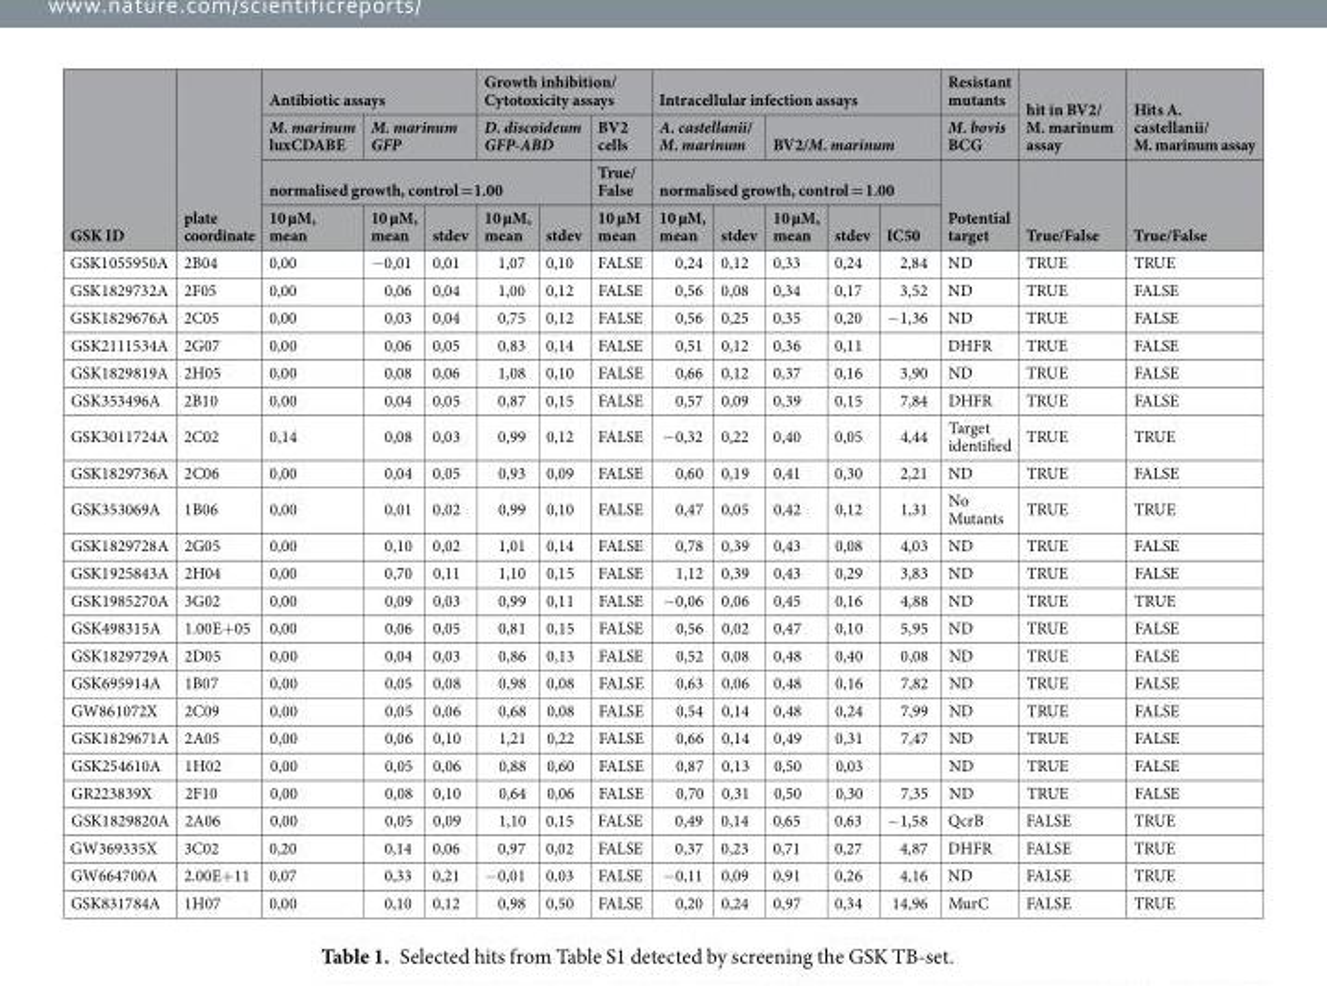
<table><thead><tr><td rowspan="4">GSK ID</td><td rowspan="4">plate coordinate</td><td colspan="3">Antibiotic assays</td><td colspan="3">Growth inhibition/ Cytotoxicity assays</td><td colspan="5">Intracellular infection assays</td><td rowspan="4">Resistant mutants M. bovis BCG Potential target</td><td rowspan="4">hit in BV2/ M. marinum assay True/False</td><td rowspan="4">Hits A. castellanii/ M. marinum assay True/False</td></tr><tr><td>M. marinum luxCDABE</td><td colspan="2">M. marinum GFP</td><td colspan="2">D. discoideum GFP-ABD</td><td rowspan="3">BV2 cells True/ False 10 µM mean</td><td colspan="2">A. castellanii/ M. marinum</td><td colspan="3">BV2/M. marinum</td></tr><tr><td colspan="5">normalised growth, control = 1.00</td><td colspan="5">normalised growth, control = 1.00</td></tr><tr><td>10 µM, mean</td><td>10 µM, mean</td><td>stdev</td><td>10 µM, mean</td><td>stdev</td><td>10 µM, mean</td><td>stdev</td><td>10 µM, mean</td><td>stdev</td><td>IC50</td></tr></thead><tbody><tr><td>GSK1055950A</td><td>2B04</td><td>0,00</td><td>−0,01</td><td>0,01</td><td>1,07</td><td>0,10</td><td>FALSE</td><td>0,24</td><td>0,12</td><td>0,33</td><td>0,24</td><td>2,84</td><td>ND</td><td>TRUE</td><td>TRUE</td></tr><tr><td>GSK1829732A</td><td>2F05</td><td>0,00</td><td>0,06</td><td>0,04</td><td>1,00</td><td>0,12</td><td>FALSE</td><td>0,56</td><td>0,08</td><td>0,34</td><td>0,17</td><td>3,52</td><td>ND</td><td>TRUE</td><td>FALSE</td></tr><tr><td>GSK1829676A</td><td>2C05</td><td>0,00</td><td>0,03</td><td>0,04</td><td>0,75</td><td>0,12</td><td>FALSE</td><td>0,56</td><td>0,25</td><td>0,35</td><td>0,20</td><td>−1,36</td><td>ND</td><td>TRUE</td><td>FALSE</td></tr><tr><td>GSK2111534A</td><td>2G07</td><td>0,00</td><td>0,06</td><td>0,05</td><td>0,83</td><td>0,14</td><td>FALSE</td><td>0,51</td><td>0,12</td><td>0,36</td><td>0,11</td><td></td><td>DHFR</td><td>TRUE</td><td>FALSE</td></tr><tr><td>GSK1829819A</td><td>2H05</td><td>0,00</td><td>0,08</td><td>0,06</td><td>1,08</td><td>0,10</td><td>FALSE</td><td>0,66</td><td>0,12</td><td>0,37</td><td>0,16</td><td>3,90</td><td>ND</td><td>TRUE</td><td>FALSE</td></tr><tr><td>GSK353496A</td><td>2B10</td><td>0,00</td><td>0,04</td><td>0,05</td><td>0,87</td><td>0,15</td><td>FALSE</td><td>0,57</td><td>0,09</td><td>0,39</td><td>0,15</td><td>7,84</td><td>DHFR</td><td>TRUE</td><td>FALSE</td></tr><tr><td>GSK3011724A</td><td>2C02</td><td>0,14</td><td>0,08</td><td>0,03</td><td>0,99</td><td>0,12</td><td>FALSE</td><td>−0,32</td><td>0,22</td><td>0,40</td><td>0,05</td><td>4,44</td><td>Target identified</td><td>TRUE</td><td>TRUE</td></tr><tr><td>GSK1829736A</td><td>2C06</td><td>0,00</td><td>0,04</td><td>0,05</td><td>0,93</td><td>0,09</td><td>FALSE</td><td>0,60</td><td>0,19</td><td>0,41</td><td>0,30</td><td>2,21</td><td>ND</td><td>TRUE</td><td>FALSE</td></tr><tr><td>GSK353069A</td><td>1B06</td><td>0,00</td><td>0,01</td><td>0,02</td><td>0,99</td><td>0,10</td><td>FALSE</td><td>0,47</td><td>0,05</td><td>0,42</td><td>0,12</td><td>1,31</td><td>No Mutants</td><td>TRUE</td><td>TRUE</td></tr><tr><td>GSK1829728A</td><td>2G05</td><td>0,00</td><td>0,10</td><td>0,02</td><td>1,01</td><td>0,14</td><td>FALSE</td><td>0,78</td><td>0,39</td><td>0,43</td><td>0,08</td><td>4,03</td><td>ND</td><td>TRUE</td><td>FALSE</td></tr><tr><td>GSK1925843A</td><td>2H04</td><td>0,00</td><td>0,70</td><td>0,11</td><td>1,10</td><td>0,15</td><td>FALSE</td><td>1,12</td><td>0,39</td><td>0,43</td><td>0,29</td><td>3,83</td><td>ND</td><td>TRUE</td><td>FALSE</td></tr><tr><td>GSK1985270A</td><td>3G02</td><td>0,00</td><td>0,09</td><td>0,03</td><td>0,99</td><td>0,11</td><td>FALSE</td><td>−0,06</td><td>0,06</td><td>0,45</td><td>0,16</td><td>4,88</td><td>ND</td><td>TRUE</td><td>TRUE</td></tr><tr><td>GSK498315A</td><td>1.00E+05</td><td>0,00</td><td>0,06</td><td>0,05</td><td>0,81</td><td>0,15</td><td>FALSE</td><td>0,56</td><td>0,02</td><td>0,47</td><td>0,10</td><td>5,95</td><td>ND</td><td>TRUE</td><td>FALSE</td></tr><tr><td>GSK1829729A</td><td>2D05</td><td>0,00</td><td>0,04</td><td>0,03</td><td>0,86</td><td>0,13</td><td>FALSE</td><td>0,52</td><td>0,08</td><td>0,48</td><td>0,40</td><td>0,08</td><td>ND</td><td>TRUE</td><td>FALSE</td></tr><tr><td>GSK695914A</td><td>1B07</td><td>0,00</td><td>0,05</td><td>0,08</td><td>0,98</td><td>0,08</td><td>FALSE</td><td>0,63</td><td>0,06</td><td>0,48</td><td>0,16</td><td>7,82</td><td>ND</td><td>TRUE</td><td>FALSE</td></tr><tr><td>GW861072X</td><td>2C09</td><td>0,00</td><td>0,05</td><td>0,06</td><td>0,68</td><td>0,08</td><td>FALSE</td><td>0,54</td><td>0,14</td><td>0,48</td><td>0,24</td><td>7,99</td><td>ND</td><td>TRUE</td><td>FALSE</td></tr><tr><td>GSK1829671A</td><td>2A05</td><td>0,00</td><td>0,06</td><td>0,10</td><td>1,21</td><td>0,22</td><td>FALSE</td><td>0,66</td><td>0,14</td><td>0,49</td><td>0,31</td><td>7,47</td><td>ND</td><td>TRUE</td><td>FALSE</td></tr><tr><td>GSK254610A</td><td>1H02</td><td>0,00</td><td>0,05</td><td>0,06</td><td>0,88</td><td>0,60</td><td>FALSE</td><td>0,87</td><td>0,13</td><td>0,50</td><td>0,03</td><td></td><td>ND</td><td>TRUE</td><td>FALSE</td></tr><tr><td>GR223839X</td><td>2F10</td><td>0,00</td><td>0,08</td><td>0,10</td><td>0,64</td><td>0,06</td><td>FALSE</td><td>0,70</td><td>0,31</td><td>0,50</td><td>0,30</td><td>7,35</td><td>ND</td><td>TRUE</td><td>FALSE</td></tr><tr><td>GSK1829820A</td><td>2A06</td><td>0,00</td><td>0,05</td><td>0,09</td><td>1,10</td><td>0,15</td><td>FALSE</td><td>0,49</td><td>0,14</td><td>0,65</td><td>0,63</td><td>−1,58</td><td>QcrB</td><td>FALSE</td><td>TRUE</td></tr><tr><td>GW369335X</td><td>3C02</td><td>0,20</td><td>0,14</td><td>0,06</td><td>0,97</td><td>0,02</td><td>FALSE</td><td>0,37</td><td>0,23</td><td>0,71</td><td>0,27</td><td>4,87</td><td>DHFR</td><td>FALSE</td><td>TRUE</td></tr><tr><td>GW664700A</td><td>2.00E+11</td><td>0,07</td><td>0,33</td><td>0,21</td><td>−0,01</td><td>0,03</td><td>FALSE</td><td>−0,11</td><td>0,09</td><td>0,91</td><td>0,26</td><td>4,16</td><td>ND</td><td>FALSE</td><td>TRUE</td></tr><tr><td>GSK831784A</td><td>1H07</td><td>0,00</td><td>0,10</td><td>0,12</td><td>0,98</td><td>0,50</td><td>FALSE</td><td>0,20</td><td>0,24</td><td>0,97</td><td>0,34</td><td>14,96</td><td>MurC</td><td>FALSE</td><td>TRUE</td></tr></tbody></table>